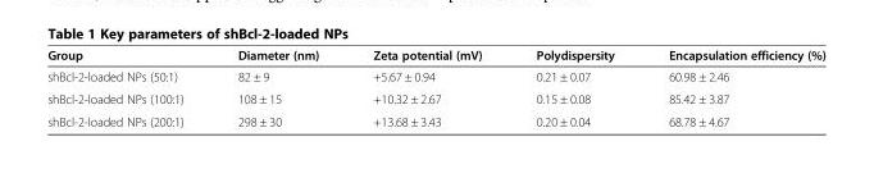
<table><thead><tr><td>Group</td><td>Diameter (nm)</td><td>Zeta potential (mV)</td><td>Polydispersity</td><td>Encapsulation efficiency (%)</td></tr></thead><tbody><tr><td>shBcl-2-loaded NPs (50:1)</td><td>82 ± 9</td><td>+5.67 ± 0.94</td><td>0.21 ± 0.07</td><td>60.98 ± 2.46</td></tr><tr><td>shBcl-2-loaded NPs (100:1)</td><td>108 ± 15</td><td>+10.32 ± 2.67</td><td>0.15 ± 0.08</td><td>85.42 ± 3.87</td></tr><tr><td>shBcl-2-loaded NPs (200:1)</td><td>298 ± 30</td><td>+13.68 ± 3.43</td><td>0.20 ± 0.04</td><td>68.78 ± 4.67</td></tr></tbody></table>